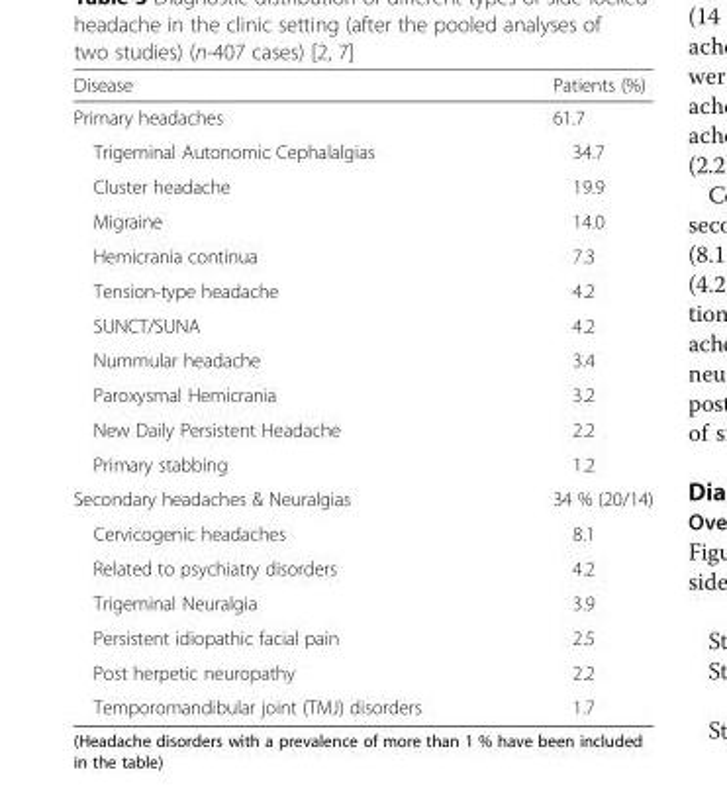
<table><thead><tr><td>Disease</td><td>Patients (%)</td></tr></thead><tbody><tr><td>Primary headaches</td><td>61.7</td></tr><tr><td>Trigeminal Autonomic Cephalalgias</td><td>34.7</td></tr><tr><td>Cluster headache</td><td>19.9</td></tr><tr><td>Migraine</td><td>14.0</td></tr><tr><td>Hemicrania continua</td><td>7.3</td></tr><tr><td>Tension-type headache</td><td>4.2</td></tr><tr><td>SUNCT/SUNA</td><td>4.2</td></tr><tr><td>Nummular headache</td><td>3.4</td></tr><tr><td>Paroxysmal Hemicrania</td><td>3.2</td></tr><tr><td>New Daily Persistent Headache</td><td>2.2</td></tr><tr><td>Primary stabbing</td><td>1.2</td></tr><tr><td>Secondary headaches &amp; Neuralgias</td><td>34 % (20/14)</td></tr><tr><td>Cervicogenic headaches</td><td>8.1</td></tr><tr><td>Related to psychiatry disorders</td><td>4.2</td></tr><tr><td>Trigeminal Neuralgia</td><td>3.9</td></tr><tr><td>Persistent idiopathic facial pain</td><td>2.5</td></tr><tr><td>Post herpetic neuropathy</td><td>2.2</td></tr><tr><td>Temporomandibular joint (TMJ) disorders</td><td>1.7</td></tr></tbody></table>